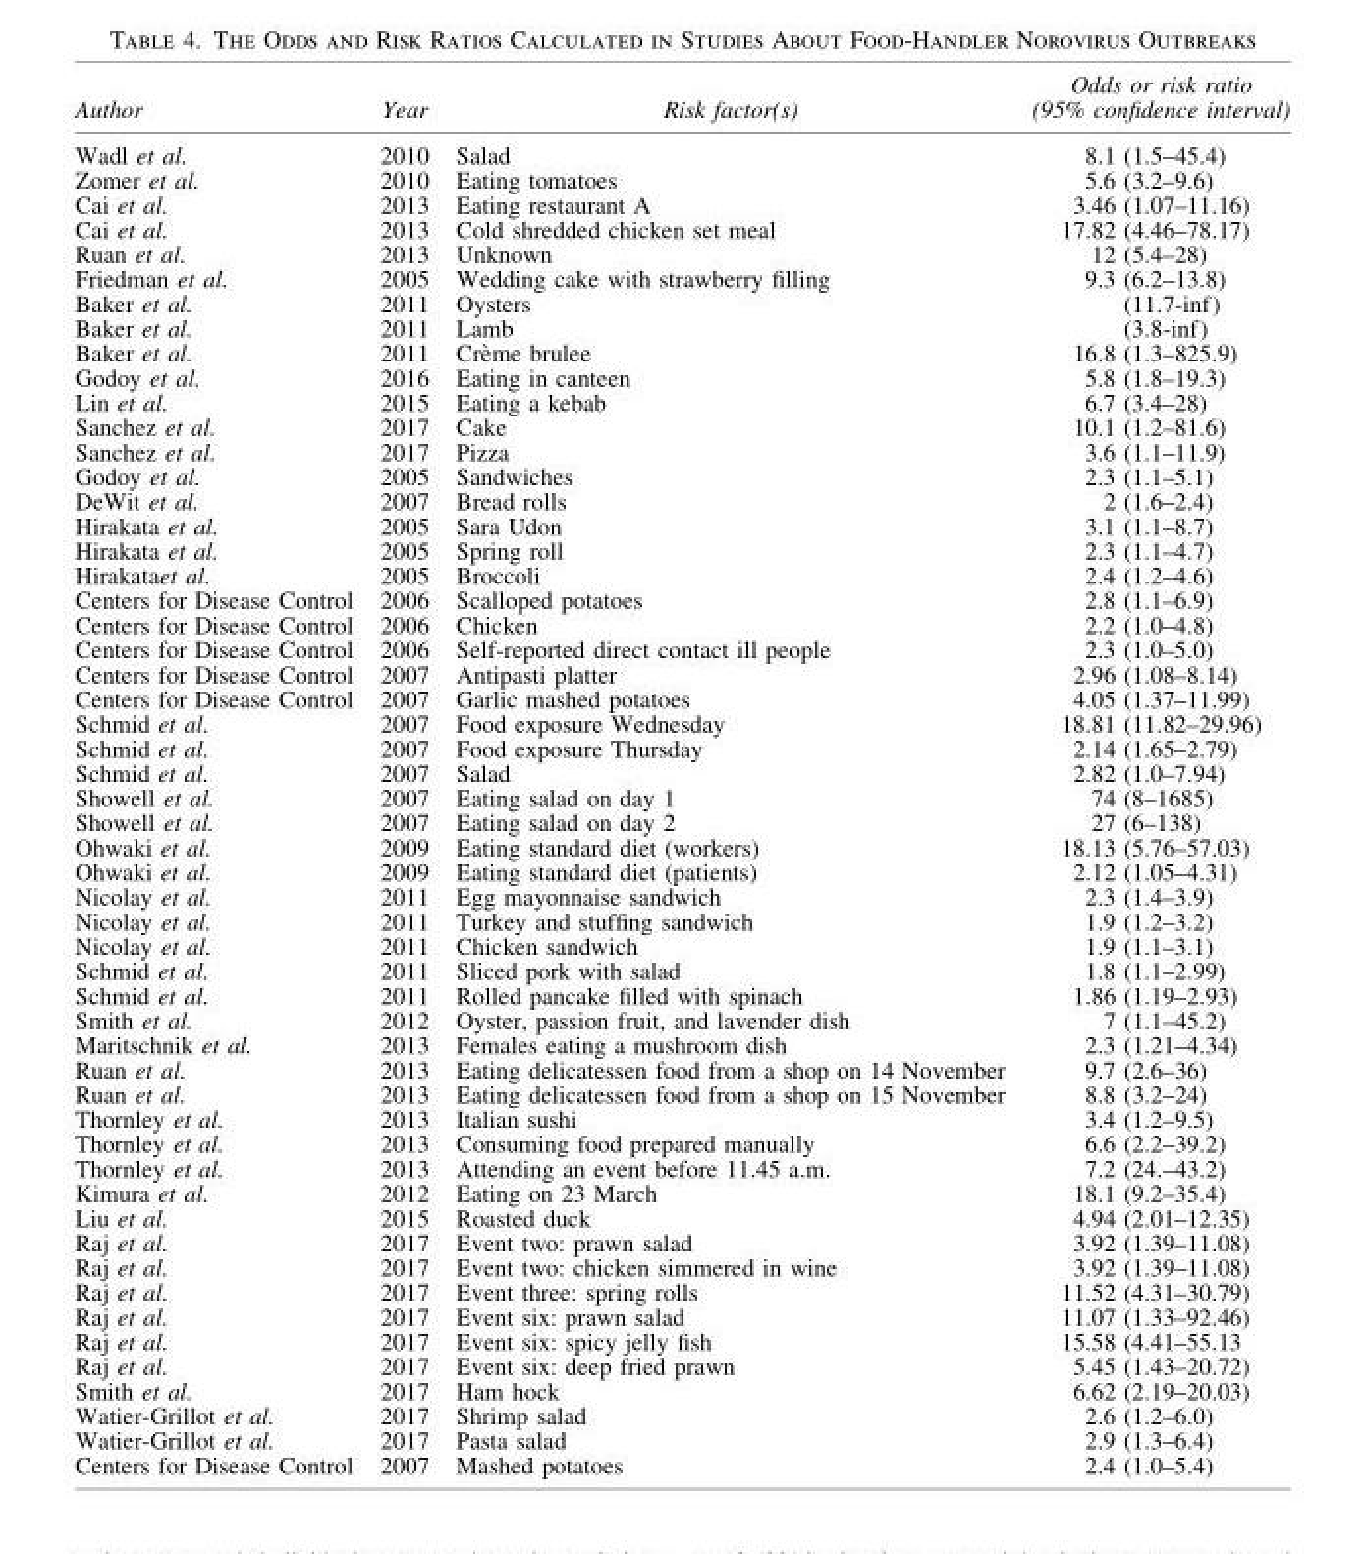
<table><thead><tr><td>Author</td><td>Year</td><td>Risk factor(s)</td><td>Odds or risk ratio (95% confidence interval)</td></tr></thead><tbody><tr><td>Wadl et al.</td><td>2010</td><td>Salad</td><td>8.1 (1.5–45.4)</td></tr><tr><td>Zomer et al.</td><td>2010</td><td>Eating tomatoes</td><td>5.6 (3.2–9.6)</td></tr><tr><td>Cai et al.</td><td>2013</td><td>Eating restaurant A</td><td>3.46 (1.07–11.16)</td></tr><tr><td>Cai et al.</td><td>2013</td><td>Cold shredded chicken set meal</td><td>17.82 (4.46–78.17)</td></tr><tr><td>Ruan et al.</td><td>2013</td><td>Unknown</td><td>12 (5.4–28)</td></tr><tr><td>Friedman et al.</td><td>2005</td><td>Wedding cake with strawberry filling</td><td>9.3 (6.2–13.8)</td></tr><tr><td>Baker et al.</td><td>2011</td><td>Oysters</td><td>(11.7-inf)</td></tr><tr><td>Baker et al.</td><td>2011</td><td>Lamb</td><td>(3.8-inf)</td></tr><tr><td>Baker et al.</td><td>2011</td><td>Cre`me brulee</td><td>16.8 (1.3–825.9)</td></tr><tr><td>Godoy et al.</td><td>2016</td><td>Eating in canteen</td><td>5.8 (1.8–19.3)</td></tr><tr><td>Lin et al.</td><td>2015</td><td>Eating a kebab</td><td>6.7 (3.4–28)</td></tr><tr><td>Sanchez et al.</td><td>2017</td><td>Cake</td><td>10.1 (1.2–81.6)</td></tr><tr><td>Sanchez et al.</td><td>2017</td><td>Pizza</td><td>3.6 (1.1–11.9)</td></tr><tr><td>Godoy et al.</td><td>2005</td><td>Sandwiches</td><td>2.3 (1.1–5.1)</td></tr><tr><td>DeWit et al.</td><td>2007</td><td>Bread rolls</td><td>2 (1.6–2.4)</td></tr><tr><td>Hirakata et al.</td><td>2005</td><td>Sara Udon</td><td>3.1 (1.1–8.7)</td></tr><tr><td>Hirakata et al.</td><td>2005</td><td>Spring roll</td><td>2.3 (1.1–4.7)</td></tr><tr><td>Hirakataet al.</td><td>2005</td><td>Broccoli</td><td>2.4 (1.2–4.6)</td></tr><tr><td>Centers for Disease Control</td><td>2006</td><td>Scalloped potatoes</td><td>2.8 (1.1–6.9)</td></tr><tr><td>Centers for Disease Control</td><td>2006</td><td>Chicken</td><td>2.2 (1.0–4.8)</td></tr><tr><td>Centers for Disease Control</td><td>2006</td><td>Self-reported direct contact ill people</td><td>2.3 (1.0–5.0)</td></tr><tr><td>Centers for Disease Control</td><td>2007</td><td>Antipasti platter</td><td>2.96 (1.08–8.14)</td></tr><tr><td>Centers for Disease Control</td><td>2007</td><td>Garlic mashed potatoes</td><td>4.05 (1.37–11.99)</td></tr><tr><td>Schmid et al.</td><td>2007</td><td>Food exposure Wednesday</td><td>18.81 (11.82–29.96)</td></tr><tr><td>Schmid et al.</td><td>2007</td><td>Food exposure Thursday</td><td>2.14 (1.65–2.79)</td></tr><tr><td>Schmid et al.</td><td>2007</td><td>Salad</td><td>2.82 (1.0–7.94)</td></tr><tr><td>Showell et al.</td><td>2007</td><td>Eating salad on day 1</td><td>74 (8–1685)</td></tr><tr><td>Showell et al.</td><td>2007</td><td>Eating salad on day 2</td><td>27 (6–138)</td></tr><tr><td>Ohwaki et al.</td><td>2009</td><td>Eating standard diet (workers)</td><td>18.13 (5.76–57.03)</td></tr><tr><td>Ohwaki et al.</td><td>2009</td><td>Eating standard diet (patients)</td><td>2.12 (1.05–4.31)</td></tr><tr><td>Nicolay et al.</td><td>2011</td><td>Egg mayonnaise sandwich</td><td>2.3 (1.4–3.9)</td></tr><tr><td>Nicolay et al.</td><td>2011</td><td>Turkey and stuffing sandwich</td><td>1.9 (1.2–3.2)</td></tr><tr><td>Nicolay et al.</td><td>2011</td><td>Chicken sandwich</td><td>1.9 (1.1–3.1)</td></tr><tr><td>Schmid et al.</td><td>2011</td><td>Sliced pork with salad</td><td>1.8 (1.1–2.99)</td></tr><tr><td>Schmid et al.</td><td>2011</td><td>Rolled pancake filled with spinach</td><td>1.86 (1.19–2.93)</td></tr><tr><td>Smith et al.</td><td>2012</td><td>Oyster, passion fruit, and lavender dish</td><td>7 (1.1–45.2)</td></tr><tr><td>Maritschnik et al.</td><td>2013</td><td>Females eating a mushroom dish</td><td>2.3 (1.21–4.34)</td></tr><tr><td>Ruan et al.</td><td>2013</td><td>Eating delicatessen food from a shop on 14 November</td><td>9.7 (2.6–36)</td></tr><tr><td>Ruan et al.</td><td>2013</td><td>Eating delicatessen food from a shop on 15 November</td><td>8.8 (3.2–24)</td></tr><tr><td>Thornley et al.</td><td>2013</td><td>Italian sushi</td><td>3.4 (1.2–9.5)</td></tr><tr><td>Thornley et al.</td><td>2013</td><td>Consuming food prepared manually</td><td>6.6 (2.2–39.2)</td></tr><tr><td>Thornley et al.</td><td>2013</td><td>Attending an event before 11.45 a.m.</td><td>7.2 (24.–43.2)</td></tr><tr><td>Kimura et al.</td><td>2012</td><td>Eating on 23 March</td><td>18.1 (9.2–35.4)</td></tr><tr><td>Liu et al.</td><td>2015</td><td>Roasted duck</td><td>4.94 (2.01–12.35)</td></tr><tr><td>Raj et al.</td><td>2017</td><td>Event two: prawn salad</td><td>3.92 (1.39–11.08)</td></tr><tr><td>Raj et al.</td><td>2017</td><td>Event two: chicken simmered in wine</td><td>3.92 (1.39–11.08)</td></tr><tr><td>Raj et al.</td><td>2017</td><td>Event three: spring rolls</td><td>11.52 (4.31–30.79)</td></tr><tr><td>Raj et al.</td><td>2017</td><td>Event six: prawn salad</td><td>11.07 (1.33–92.46)</td></tr><tr><td>Raj et al.</td><td>2017</td><td>Event six: spicy jelly fish</td><td>15.58 (4.41–55.13</td></tr><tr><td>Raj et al.</td><td>2017</td><td>Event six: deep fried prawn</td><td>5.45 (1.43–20.72)</td></tr><tr><td>Smith et al.</td><td>2017</td><td>Ham hock</td><td>6.62 (2.19–20.03)</td></tr><tr><td>Watier-Grillot et al.</td><td>2017</td><td>Shrimp salad</td><td>2.6 (1.2–6.0)</td></tr><tr><td>Watier-Grillot et al.</td><td>2017</td><td>Pasta salad</td><td>2.9 (1.3–6.4)</td></tr><tr><td>Centers for Disease Control</td><td>2007</td><td>Mashed potatoes</td><td>2.4 (1.0–5.4)</td></tr></tbody></table>